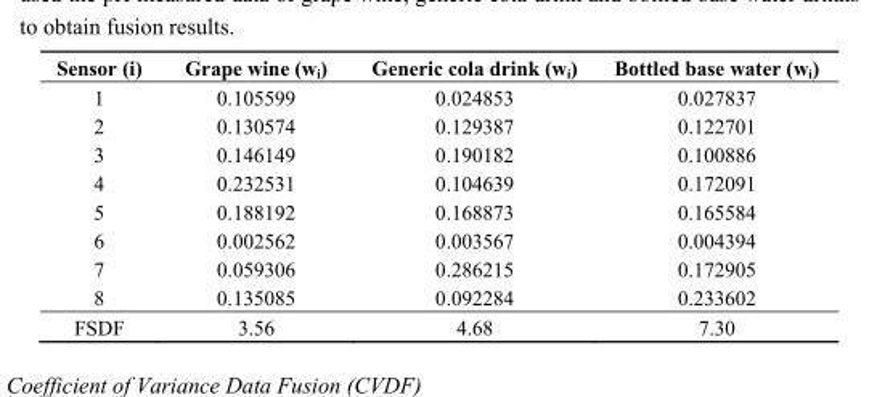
<table><thead><tr><td>Sensor (i)</td><td>Grape wine (w<sub>i</sub>)</td><td>Generic cola drink (w<sub>i</sub>)</td><td>Bottled base water (w<sub>i</sub>)</td></tr></thead><tbody><tr><td>1</td><td>0.105599</td><td>0.024853</td><td>0.027837</td></tr><tr><td>2</td><td>0.130574</td><td>0.129387</td><td>0.122701</td></tr><tr><td>3</td><td>0.146149</td><td>0.190182</td><td>0.100886</td></tr><tr><td>4</td><td>0.232531</td><td>0.104639</td><td>0.172091</td></tr><tr><td>5</td><td>0.188192</td><td>0.168873</td><td>0.165584</td></tr><tr><td>6</td><td>0.002562</td><td>0.003567</td><td>0.004394</td></tr><tr><td>7</td><td>0.059306</td><td>0.286215</td><td>0.172905</td></tr><tr><td>8</td><td>0.135085</td><td>0.092284</td><td>0.233602</td></tr><tr><td>FSDF</td><td>3.56</td><td>4.68</td><td>7.30</td></tr></tbody></table>